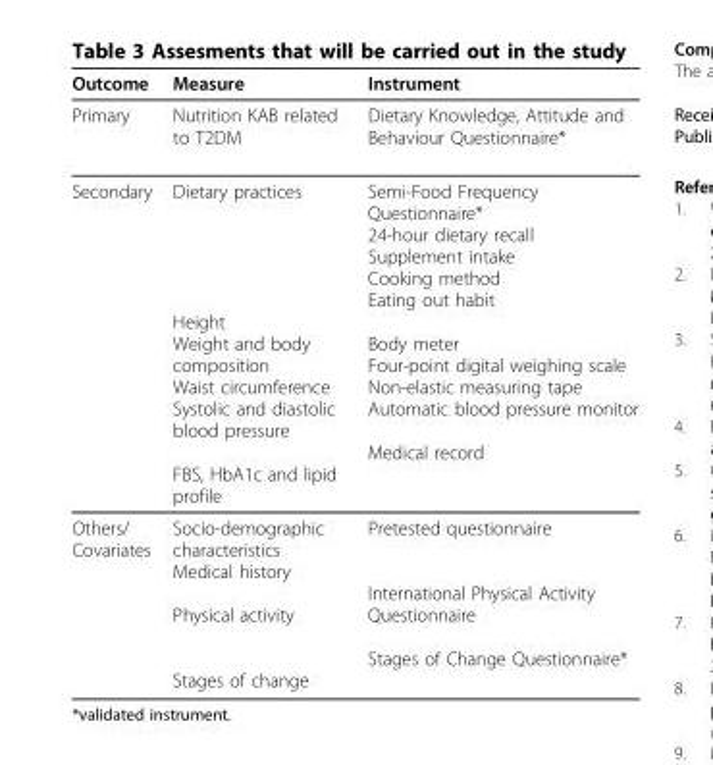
<table><thead><tr><td>Outcome</td><td>Measure</td><td>Instrument</td></tr></thead><tbody><tr><td>Primary</td><td>Nutrition KAB related to T2DM</td><td>Dietary Knowledge, Attitude and Behaviour Questionnaire*</td></tr><tr><td>Secondary</td><td>Dietary practices Height Weight and body composition Waist circumference Systolic and diastolic blood pressure FBS, HbA1c and lipid profile</td><td>Semi-Food Frequency Questionnaire* 24-hour dietary recall Supplement intake Cooking method Eating out habit Body meter Four-point digital weighing scale Non-elastic measuring tape Automatic blood pressure monitor Medical record</td></tr><tr><td>Others/ Covariates</td><td>Socio-demographic characteristics Medical history Physical activity Stages of change</td><td>Pretested questionnaire International Physical Activity Questionnaire Stages of Change Questionnaire*</td></tr></tbody></table>